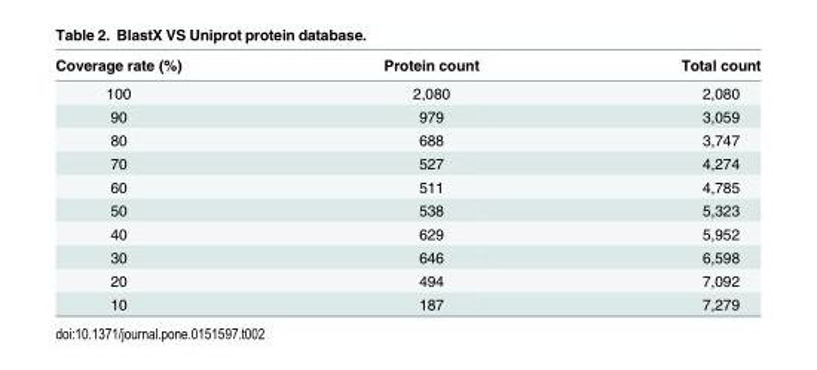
<table><thead><tr><td>Coverage rate (%)</td><td>Protein count</td><td>Total count</td></tr></thead><tbody><tr><td>100</td><td>2,080</td><td>2,080</td></tr><tr><td>90</td><td>979</td><td>3,059</td></tr><tr><td>80</td><td>688</td><td>3,747</td></tr><tr><td>70</td><td>527</td><td>4,274</td></tr><tr><td>60</td><td>511</td><td>4,785</td></tr><tr><td>50</td><td>538</td><td>5,323</td></tr><tr><td>40</td><td>629</td><td>5,952</td></tr><tr><td>30</td><td>646</td><td>6,598</td></tr><tr><td>20</td><td>494</td><td>7,092</td></tr><tr><td>10</td><td>187</td><td>7,279</td></tr></tbody></table>